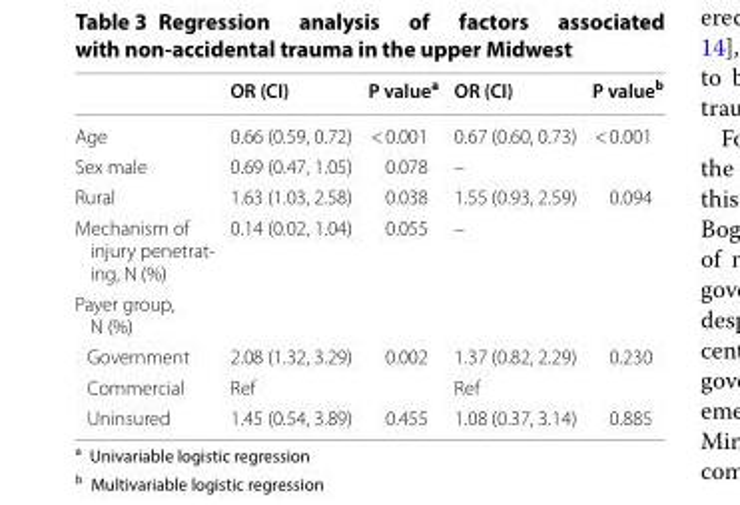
<table><thead><tr><td></td><td>OR (CI)</td><td>P value<sup>a</sup></td><td>OR (CI)</td><td>P value<sup>b</sup></td></tr></thead><tbody><tr><td>Age</td><td>0.66 (0.59, 0.72)</td><td>&lt; 0.001</td><td>0.67 (0.60, 0.73)</td><td>&lt; 0.001</td></tr><tr><td>Sex male</td><td>0.69 (0.47, 1.05)</td><td>0.078</td><td>–</td><td></td></tr><tr><td>Rural</td><td>1.63 (1.03, 2.58)</td><td>0.038</td><td>1.55 (0.93, 2.59)</td><td>0.094</td></tr><tr><td>Mechanism of injury penetrat‑ ing, N (%)</td><td>0.14 (0.02, 1.04)</td><td>0.055</td><td>–</td><td></td></tr><tr><td colspan="5">Payer group, N (%)</td></tr><tr><td>Government</td><td>2.08 (1.32, 3.29)</td><td>0.002</td><td>1.37 (0.82, 2.29)</td><td>0.230</td></tr><tr><td>Commercial</td><td>Ref</td><td></td><td>Ref</td><td></td></tr><tr><td>Uninsured</td><td>1.45 (0.54, 3.89)</td><td>0.455</td><td>1.08 (0.37, 3.14)</td><td>0.885</td></tr></tbody></table>